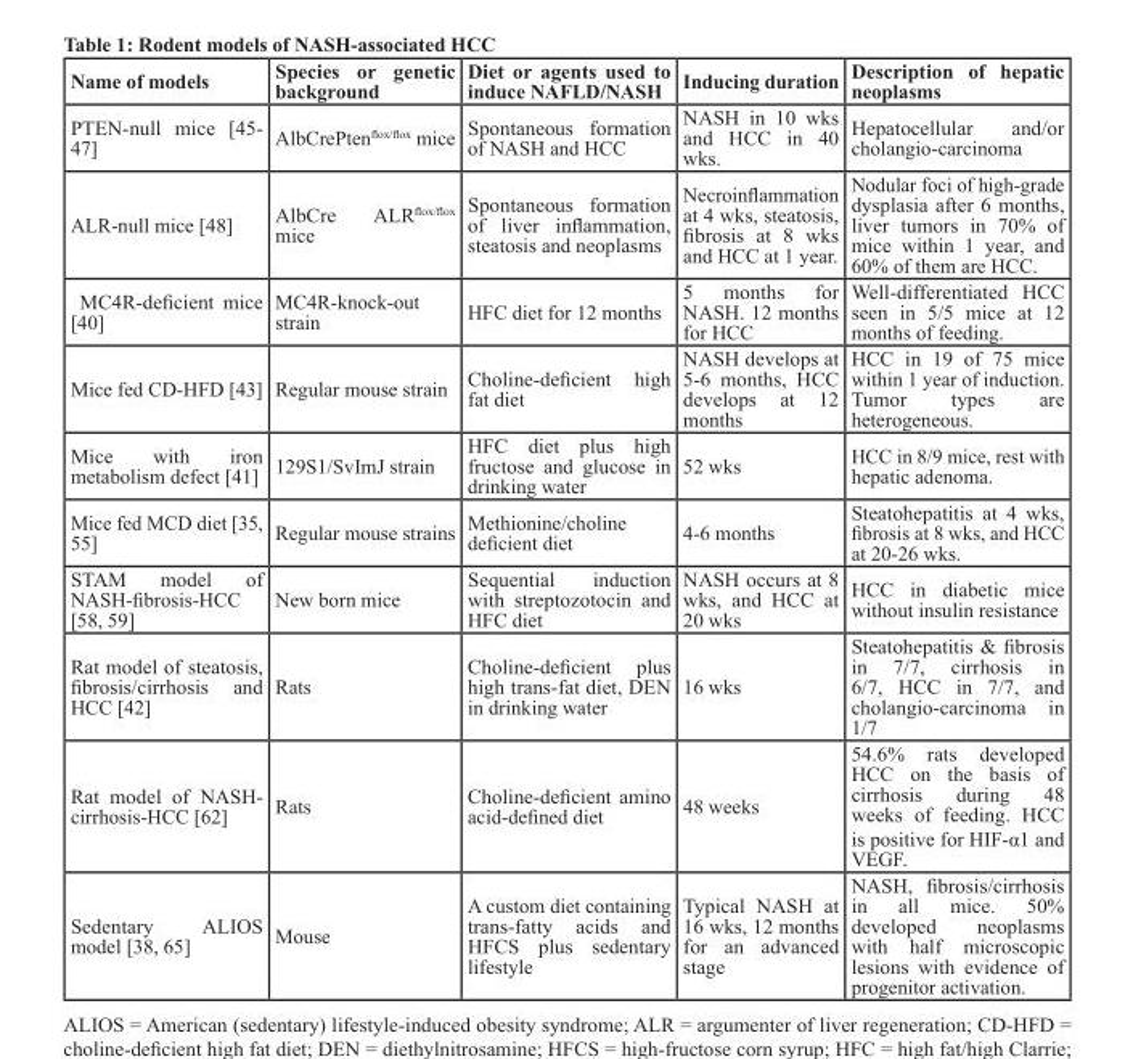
<table><thead><tr><td>Name of models</td><td>species or genetic background</td><td>Diet or agents used to induce NAFLD/NASH</td><td>Inducing duration</td><td>description of hepatic neoplasms</td></tr></thead><tbody><tr><td>PTEN-null mice [45- 47]</td><td>AlbCrePten<sup>flox/flox</sup> mice</td><td>Spontaneous formation of NASH and HCC</td><td>NASH in 10 wks and HCC in 40 wks.</td><td>Hepatocellular and/or cholangio-carcinoma</td></tr><tr><td>ALR-null mice [48]</td><td>AlbCre ALR<sup>flox/flox</sup> mice</td><td>Spontaneous formation of liver inflammation, steatosis and neoplasms</td><td>Necroinflammation at 4 wks, steatosis, fibrosis at 8 wks and HCC at 1 year.</td><td>Nodular foci of high-grade dysplasia after 6 months, liver tumors in 70% of mice within 1 year, and 60% of them are HCC.</td></tr><tr><td>MC4R-deficient mice [40]</td><td>MC4R-knock-out strain</td><td>HFC diet for 12 months</td><td>5 months for NASH. 12 months for HCC</td><td>Well-differentiated HCC seen in 5/5 mice at 12 months of feeding.</td></tr><tr><td>Mice fed CD-HFD [43]</td><td>Regular mouse strain</td><td>Choline-deficient high fat diet</td><td>NASH develops at 5-6 months, HCC develops at 12 months</td><td>HCC in 19 of 75 mice within 1 year of induction. Tumor types are heterogeneous.</td></tr><tr><td>Mice with iron metabolism defect [41]</td><td>129S1/SvImJ strain</td><td>HFC diet plus high fructose and glucose in drinking water</td><td>52 wks</td><td>HCC in 8/9 mice, rest with hepatic adenoma.</td></tr><tr><td>Mice fed MCD diet [35, 55]</td><td>Regular mouse strains</td><td>Methionine/choline deficient diet</td><td>4-6 months</td><td>Steatohepatitis at 4 wks, fibrosis at 8 wks, and HCC at 20-26 wks.</td></tr><tr><td>STAM model of NASH-fibrosis-HCC [58, 59]</td><td>New born mice</td><td>Sequential induction with streptozotocin and HFC diet</td><td>NASH occurs at 8 wks, and HCC at 20 wks</td><td>HCC in diabetic mice without insulin resistance</td></tr><tr><td>Rat model of steatosis, fibrosis/cirrhosis and HCC [42]</td><td>Rats</td><td>Choline-deficient plus high trans-fat diet, DEN in drinking water</td><td>16 wks</td><td>Steatohepatitis &amp; fibrosis in 7/7, cirrhosis in 6/7, HCC in 7/7, and cholangio-carcinoma in 1/7</td></tr><tr><td>Rat model of NASH- cirrhosis-HCC [62]</td><td>Rats</td><td>Choline-deficient amino acid-defined diet</td><td>48 weeks</td><td>54.6% rats developed HCC on the basis of cirrhosis during 48 weeks of feeding. HCC is positive for HIF-α1 and VEGF.</td></tr><tr><td>Sedentary ALIOS model [38, 65]</td><td>Mouse</td><td>A custom diet containing trans-fatty acids and HFCS plus sedentary lifestyle</td><td>Typical NASH at 16 wks, 12 months for an advanced stage</td><td>NASH, fibrosis/cirrhosis in all mice. 50% developed neoplasms with half microscopic lesions with evidence of progenitor activation.</td></tr></tbody></table>